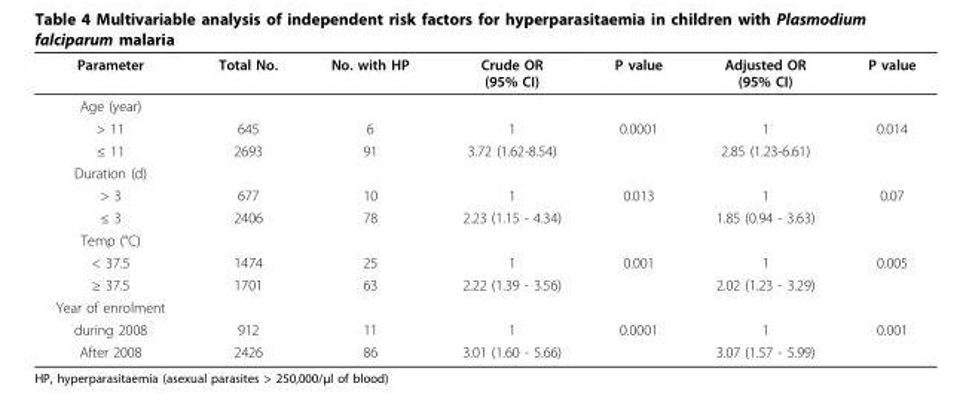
<table><thead><tr><td>Parameter</td><td>Total No.</td><td>No. with HP</td><td>Crude OR (95% CI)</td><td>P value</td><td>Adjusted OR (95% CI)</td><td>P value</td></tr></thead><tbody><tr><td colspan="7">Age (year)</td></tr><tr><td>&gt; 11</td><td>645</td><td>6</td><td>1</td><td>0.0001</td><td>1</td><td>0.014</td></tr><tr><td>≤ 11</td><td>2693</td><td>91</td><td>3.72 (1.62-8.54)</td><td></td><td>2.85 (1.23-6.61)</td><td></td></tr><tr><td colspan="7">Duration (d)</td></tr><tr><td>&gt; 3</td><td>677</td><td>10</td><td>1</td><td>0.013</td><td>1</td><td>0.07</td></tr><tr><td>≤ 3</td><td>2406</td><td>78</td><td>2.23 (1.15 - 4.34)</td><td></td><td>1.85 (0.94 - 3.63)</td><td></td></tr><tr><td colspan="7">Temp (°C)</td></tr><tr><td>&lt; 37.5</td><td>1474</td><td>25</td><td>1</td><td>0.001</td><td>1</td><td>0.005</td></tr><tr><td>≥ 37.5</td><td>1701</td><td>63</td><td>2.22 (1.39 - 3.56)</td><td></td><td>2.02 (1.23 - 3.29)</td><td></td></tr><tr><td colspan="7">Year of enrolment</td></tr><tr><td>during 2008</td><td>912</td><td>11</td><td>1</td><td>0.0001</td><td>1</td><td>0.001</td></tr><tr><td>After 2008</td><td>2426</td><td>86</td><td>3.01 (1.60 - 5.66)</td><td></td><td>3.07 (1.57 - 5.99)</td><td></td></tr></tbody></table>